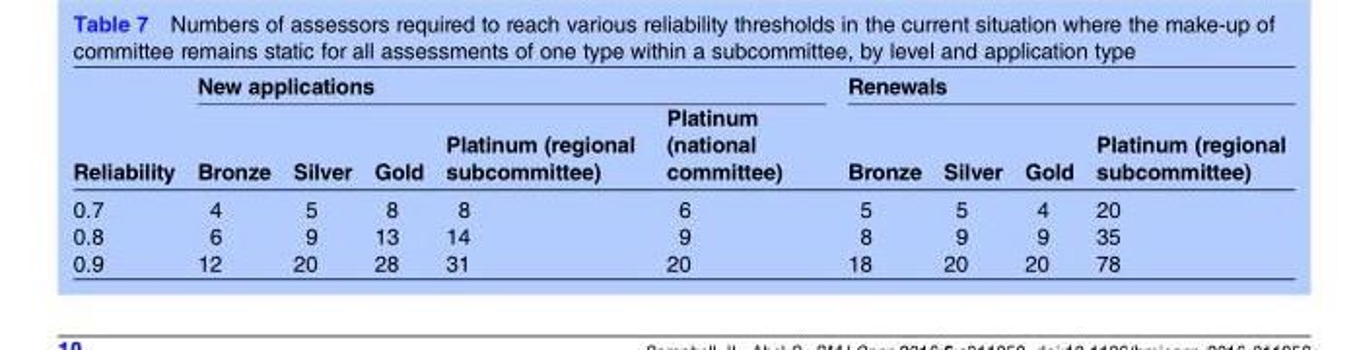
<table><thead><tr><td rowspan="2">Reliability</td><td colspan="5">New applications</td><td colspan="4">Renewals</td></tr><tr><td>Bronze</td><td>Silver</td><td>Gold</td><td>Platinum (regional subcommittee)</td><td>Platinum (national committee)</td><td>Bronze</td><td>Silver</td><td>Gold</td><td>Platinum (regional subcommittee)</td></tr></thead><tbody><tr><td>0.7</td><td>4</td><td>5</td><td>8</td><td>8</td><td>6</td><td>5</td><td>5</td><td>4</td><td>20</td></tr><tr><td>0.8</td><td>6</td><td>9</td><td>13</td><td>14</td><td>9</td><td>8</td><td>9</td><td>9</td><td>35</td></tr><tr><td>0.9</td><td>12</td><td>20</td><td>28</td><td>31</td><td>20</td><td>18</td><td>20</td><td>20</td><td>78</td></tr></tbody></table>